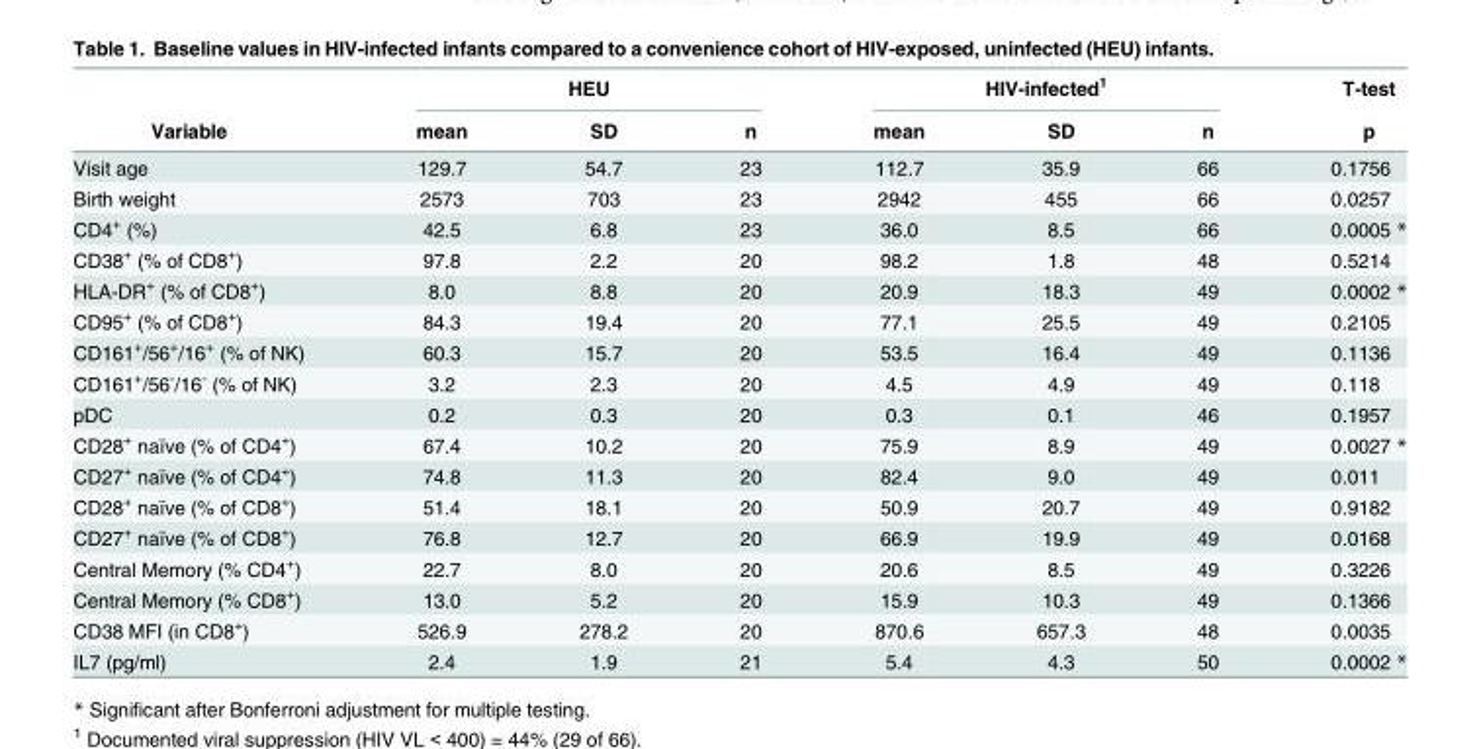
<table><thead><tr><td rowspan="2">Variable</td><td colspan="3">HEU</td><td colspan="3">HIV-infected<sup>1</sup></td><td rowspan="2">T-test p</td></tr><tr><td>mean</td><td>SD</td><td>n</td><td>mean</td><td>SD</td><td>n</td></tr></thead><tbody><tr><td>Visit age</td><td>129.7</td><td>54.7</td><td>23</td><td>112.7</td><td>35.9</td><td>66</td><td>0.1756</td></tr><tr><td>Birth weight</td><td>2573</td><td>703</td><td>23</td><td>2942</td><td>455</td><td>66</td><td>0.0257</td></tr><tr><td>CD4<sup>+</sup> (%)</td><td>42.5</td><td>6.8</td><td>23</td><td>36.0</td><td>8.5</td><td>66</td><td>0.0005 *</td></tr><tr><td>CD38<sup>+</sup> (% of CD8<sup>+</sup>)</td><td>97.8</td><td>2.2</td><td>20</td><td>98.2</td><td>1.8</td><td>48</td><td>0.5214</td></tr><tr><td>HLA-DR<sup>+</sup> (% of CD8<sup>+</sup>)</td><td>8.0</td><td>8.8</td><td>20</td><td>20.9</td><td>18.3</td><td>49</td><td>0.0002 *</td></tr><tr><td>CD95<sup>+</sup> (% of CD8<sup>+</sup>)</td><td>84.3</td><td>19.4</td><td>20</td><td>77.1</td><td>25.5</td><td>49</td><td>0.2105</td></tr><tr><td>CD161<sup>+</sup>/56<sup>+</sup>/16<sup>+</sup> (% of NK)</td><td>60.3</td><td>15.7</td><td>20</td><td>53.5</td><td>16.4</td><td>49</td><td>0.1136</td></tr><tr><td>CD161<sup>+</sup>/56<sup>-</sup>/16<sup>-</sup> (% of NK)</td><td>3.2</td><td>2.3</td><td>20</td><td>4.5</td><td>4.9</td><td>49</td><td>0.118</td></tr><tr><td>pDC</td><td>0.2</td><td>0.3</td><td>20</td><td>0.3</td><td>0.1</td><td>46</td><td>0.1957</td></tr><tr><td>CD28<sup>+</sup> naïve (% of CD4<sup>+</sup>)</td><td>67.4</td><td>10.2</td><td>20</td><td>75.9</td><td>8.9</td><td>49</td><td>0.0027 *</td></tr><tr><td>CD27<sup>+</sup> naïve (% of CD4<sup>+</sup>)</td><td>74.8</td><td>11.3</td><td>20</td><td>82.4</td><td>9.0</td><td>49</td><td>0.011</td></tr><tr><td>CD28<sup>+</sup> naïve (% of CD8<sup>+</sup>)</td><td>51.4</td><td>18.1</td><td>20</td><td>50.9</td><td>20.7</td><td>49</td><td>0.9182</td></tr><tr><td>CD27<sup>+</sup> naïve (% of CD8<sup>+</sup>)</td><td>76.8</td><td>12.7</td><td>20</td><td>66.9</td><td>19.9</td><td>49</td><td>0.0168</td></tr><tr><td>Central Memory (% CD4<sup>+</sup>)</td><td>22.7</td><td>8.0</td><td>20</td><td>20.6</td><td>8.5</td><td>49</td><td>0.3226</td></tr><tr><td>Central Memory (% CD8<sup>+</sup>)</td><td>13.0</td><td>5.2</td><td>20</td><td>15.9</td><td>10.3</td><td>49</td><td>0.1366</td></tr><tr><td>CD38 MFI (in CD8<sup>+</sup>)</td><td>526.9</td><td>278.2</td><td>20</td><td>870.6</td><td>657.3</td><td>48</td><td>0.0035</td></tr><tr><td>IL7 (pg/ml)</td><td>2.4</td><td>1.9</td><td>21</td><td>5.4</td><td>4.3</td><td>50</td><td>0.0002 *</td></tr></tbody></table>